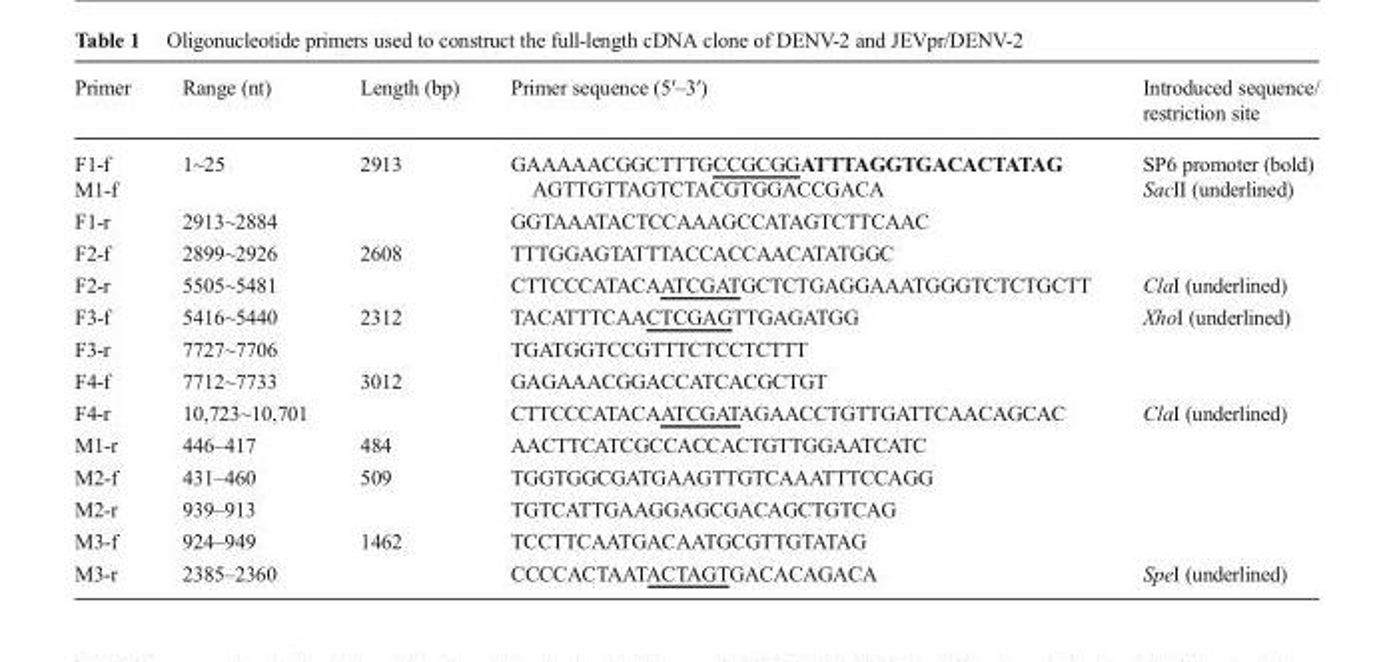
<table><thead><tr><td>Primer</td><td>Range (nt)</td><td>Length (bp)</td><td>Primer sequence (5′–3′)</td><td>Introduced sequence/ restriction site</td></tr></thead><tbody><tr><td>F1-f M1-f</td><td>1~25</td><td>2913</td><td>GAAAAACGGCTTTGCCGCGGATTTAGGTGACACTATAG AGTTGTTAGTCTACGTGGACCGACA</td><td>SP6 promoter (bold) SacII (underlined)</td></tr><tr><td>F1-r</td><td>2913~2884</td><td></td><td>GGTAAATACTCCAAAGCCATAGTCTTCAAC</td><td></td></tr><tr><td>F2-f</td><td>2899~2926</td><td>2608</td><td>TTTGGAGTATTTACCACCAACATATGGC</td><td></td></tr><tr><td>F2-r</td><td>5505~5481</td><td></td><td>CTTCCCATACAATCGATGCTCTGAGGAAATGGGTCTCTGCTT</td><td>ClaI (underlined)</td></tr><tr><td>F3-f</td><td>5416~5440</td><td>2312</td><td>TACATTTCAACTCGAGTTGAGATGG</td><td>XhoI (underlined)</td></tr><tr><td>F3-r</td><td>7727~7706</td><td></td><td>TGATGGTCCGTTTCTCCTCTTT</td><td></td></tr><tr><td>F4-f</td><td>7712~7733</td><td>3012</td><td>GAGAAACGGACCATCACGCTGT</td><td></td></tr><tr><td>F4-r</td><td>10,723~10,701</td><td></td><td>CTTCCCATACAATCGATAGAACCTGTTGATTCAACAGCAC</td><td>ClaI (underlined)</td></tr><tr><td>M1-r</td><td>446–417</td><td>484</td><td>AACTTCATCGCCACCACTGTTGGAATCATC</td><td></td></tr><tr><td>M2-f</td><td>431–460</td><td>509</td><td>TGGTGGCGATGAAGTTGTCAAATTTCCAGG</td><td></td></tr><tr><td>M2-r</td><td>939–913</td><td></td><td>TGTCATTGAAGGAGCGACAGCTGTCAG</td><td></td></tr><tr><td>M3-f</td><td>924–949</td><td>1462</td><td>TCCTTCAATGACAATGCGTTGTATAG</td><td></td></tr><tr><td>M3-r</td><td>2385–2360</td><td></td><td>CCCCACTAATACTAGTGACACAGACA</td><td>SpeI (underlined)</td></tr></tbody></table>